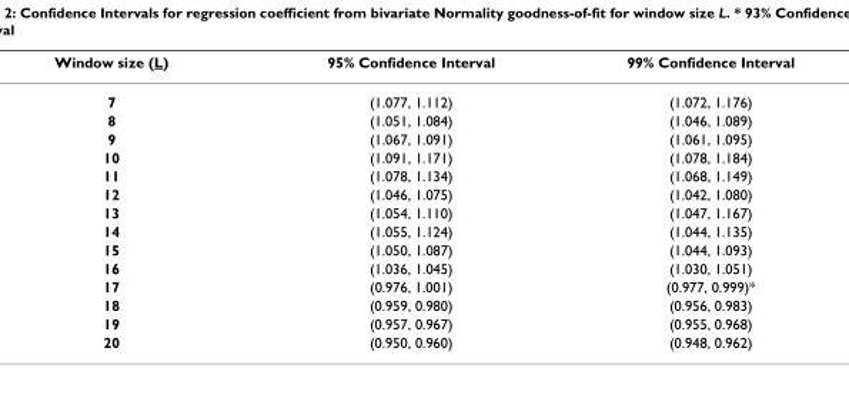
<table><thead><tr><td>Window size (L)</td><td>95% Confidence Interval</td><td>99% Confidence Interval</td></tr></thead><tbody><tr><td>7</td><td>(1.077, 1.112)</td><td>(1.072, 1.176)</td></tr><tr><td>8</td><td>(1.051, 1.084)</td><td>(1.046, 1.089)</td></tr><tr><td>9</td><td>(1.067, 1.091)</td><td>(1.061, 1.095)</td></tr><tr><td>10</td><td>(1.091, 1.171)</td><td>(1.078, 1.184)</td></tr><tr><td>11</td><td>(1.078, 1.134)</td><td>(1.068, 1.149)</td></tr><tr><td>12</td><td>(1.046, 1.075)</td><td>(1.042, 1.080)</td></tr><tr><td>13</td><td>(1.054, 1.110)</td><td>(1.047, 1.167)</td></tr><tr><td>14</td><td>(1.055, 1.124)</td><td>(1.044, 1.135)</td></tr><tr><td>15</td><td>(1.050, 1.087)</td><td>(1.044, 1.093)</td></tr><tr><td>16</td><td>(1.036, 1.045)</td><td>(1.030, 1.051)</td></tr><tr><td>17</td><td>(0.976, 1.001)</td><td>(0.977, 0.999)*</td></tr><tr><td>18</td><td>(0.959, 0.980)</td><td>(0.956, 0.983)</td></tr><tr><td>19</td><td>(0.957, 0.967)</td><td>(0.955, 0.968)</td></tr><tr><td>20</td><td>(0.950, 0.960)</td><td>(0.948, 0.962)</td></tr></tbody></table>